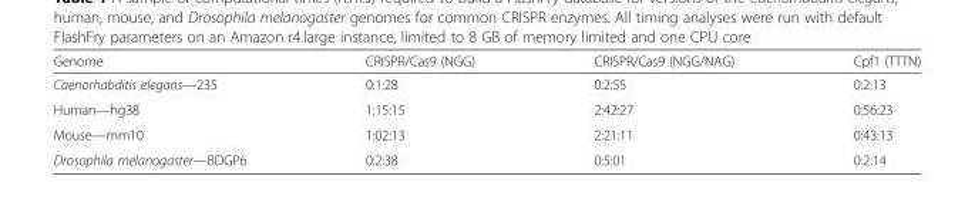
<table><thead><tr><td>Genome</td><td>CRISPR/Cas9 (NGG)</td><td>CRISPR/Cas9 (NGG/NAG)</td><td>Cpf1 (TTTN)</td></tr></thead><tbody><tr><td>Caenorhabditis elegans—235</td><td>0:1:28</td><td>0:2:55</td><td>0:2:13</td></tr><tr><td>Human—hg38</td><td>1:15:15</td><td>2:42:27</td><td>0:56:23</td></tr><tr><td>Mouse—mm10</td><td>1:02:13</td><td>2:21:11</td><td>0:43:13</td></tr><tr><td>Drosophila melanogaster—BDGP6</td><td>0:2:38</td><td>0:5:01</td><td>0:2:14</td></tr></tbody></table>